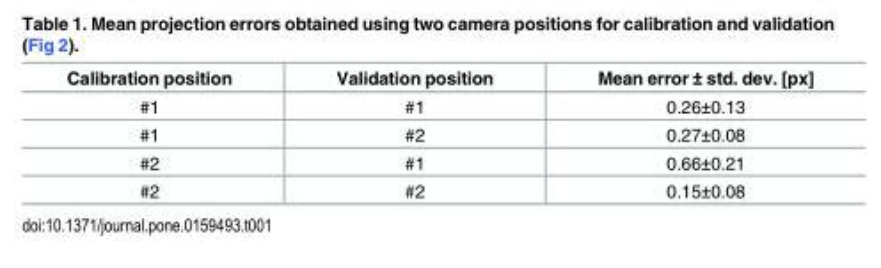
<table><thead><tr><td>Calibration position</td><td>Validation position</td><td>Mean error ± std. dev. [px]</td></tr></thead><tbody><tr><td>#1</td><td>#1</td><td>0.26±0.13</td></tr><tr><td>#1</td><td>#2</td><td>0.27±0.08</td></tr><tr><td>#2</td><td>#1</td><td>0.66±0.21</td></tr><tr><td>#2</td><td>#2</td><td>0.15±0.08</td></tr></tbody></table>